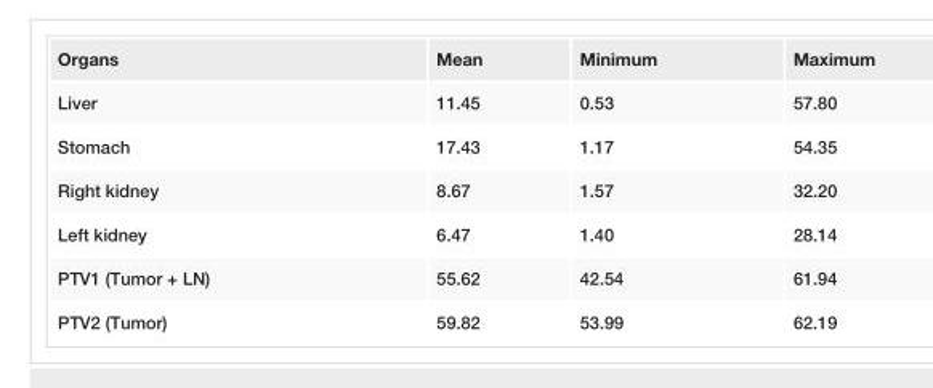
<table><tbody><tr><td>Organs</td><td>Mean</td><td>Minimum</td><td>Maximum</td></tr><tr><td>Liver</td><td>11.45</td><td>0.53</td><td>57.80</td></tr><tr><td>Stomach</td><td>17.43</td><td>1.17</td><td>54.35</td></tr><tr><td>Right kidney</td><td>8.67</td><td>1.57</td><td>32.20</td></tr><tr><td>Left kidney</td><td>6.47</td><td>1.40</td><td>28.14</td></tr><tr><td>PTV1 (Tumor + LN)</td><td>55.62</td><td>42.54</td><td>61.94</td></tr><tr><td>PTV2 (Tumor)</td><td>59.82</td><td>53.99</td><td>62.19</td></tr></tbody></table>